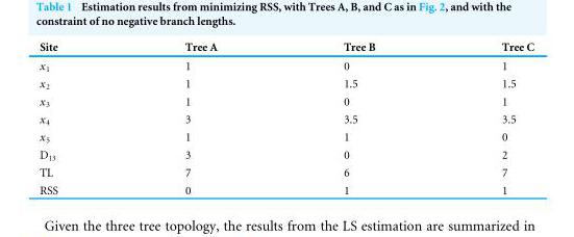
<table><thead><tr><td>Site</td><td>Tree A</td><td>Tree B</td><td>Tree C</td></tr></thead><tbody><tr><td>x<sub>1</sub></td><td>1</td><td>0</td><td>1</td></tr><tr><td>x<sub>2</sub></td><td>1</td><td>1.5</td><td>1.5</td></tr><tr><td>x<sub>3</sub></td><td>1</td><td>0</td><td>1</td></tr><tr><td>x<sub>4</sub></td><td>3</td><td>3.5</td><td>3.5</td></tr><tr><td>x<sub>5</sub></td><td>1</td><td>1</td><td>0</td></tr><tr><td>D<sub>13</sub></td><td>3</td><td>0</td><td>2</td></tr><tr><td>TL</td><td>7</td><td>6</td><td>7</td></tr><tr><td>RSS</td><td>0</td><td>1</td><td>1</td></tr></tbody></table>